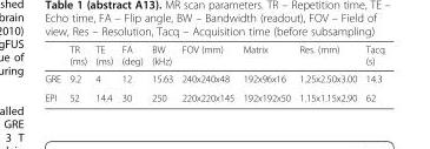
<table><thead><tr><td></td><td>TR (ms)</td><td>TE (ms)</td><td>FA (deg)</td><td>BW (kHz)</td><td>FOV (mm)</td><td>Matrix</td><td>Res. (mm)</td><td>Tacq (s)</td></tr></thead><tbody><tr><td>GRE</td><td>9.2</td><td>4</td><td>12</td><td>15.63</td><td>240x240x48</td><td>192x96x16</td><td>1.25x2.50x3.00</td><td>14.3</td></tr><tr><td>EPI</td><td>52</td><td>14.4</td><td>30</td><td>250</td><td>220x220x145</td><td>192x192x50</td><td>1.15x1.15x2.90</td><td>62</td></tr></tbody></table>